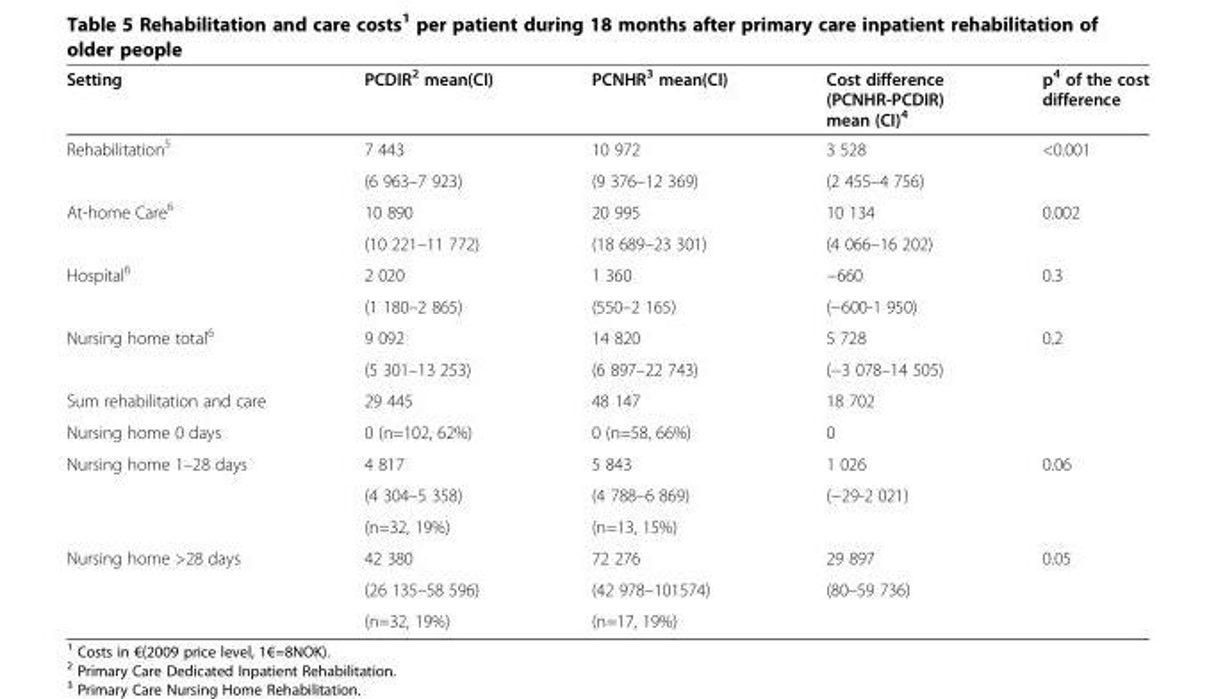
<table><thead><tr><td>Setting</td><td>PCDIR<sup>2</sup> mean(CI)</td><td>PCNHR<sup>3</sup> mean(CI)</td><td>Cost difference (PCNHR-PCDIR) mean (CI)<sup>4</sup></td><td>p<sup>4</sup> of the cost difference</td></tr></thead><tbody><tr><td rowspan="2">Rehabilitation<sup>5</sup></td><td>7 443</td><td>10 972</td><td>3 528</td><td rowspan="2">&lt;0.001</td></tr><tr><td>(6 963–7 923)</td><td>(9 376–12 369)</td><td>(2 455–4 756)</td></tr><tr><td rowspan="2">At-home Care<sup>6</sup></td><td>10 890</td><td>20 995</td><td>10 134</td><td rowspan="2">0.002</td></tr><tr><td>(10 221–11 772)</td><td>(18 689–23 301)</td><td>(4 066–16 202)</td></tr><tr><td rowspan="2">Hospital<sup>6</sup></td><td>2 020</td><td>1 360</td><td>−660</td><td rowspan="2">0.3</td></tr><tr><td>(1 180–2 865)</td><td>(550–2 165)</td><td>(−600-1 950)</td></tr><tr><td rowspan="2">Nursing home total<sup>6</sup></td><td>9 092</td><td>14 820</td><td>5 728</td><td rowspan="2">0.2</td></tr><tr><td>(5 301–13 253)</td><td>(6 897–22 743)</td><td>(−3 078–14 505)</td></tr><tr><td>Sum rehabilitation and care</td><td>29 445</td><td>48 147</td><td>18 702</td><td></td></tr><tr><td>Nursing home 0 days</td><td>0 (n=102, 62%)</td><td>0 (n=58, 66%)</td><td>0</td><td></td></tr><tr><td rowspan="3">Nursing home 1–28 days</td><td>4 817</td><td>5 843</td><td>1 026</td><td rowspan="2">0.06</td></tr><tr><td>(4 304–5 358)</td><td>(4 788–6 869)</td><td>(−29-2 021)</td></tr><tr><td>(n=32, 19%)</td><td>(n=13, 15%)</td><td></td><td></td></tr><tr><td rowspan="3">Nursing home &gt;28 days</td><td>42 380</td><td>72 276</td><td>29 897</td><td rowspan="2">0.05</td></tr><tr><td>(26 135–58 596)</td><td>(42 978–101574)</td><td>(80–59 736)</td></tr><tr><td>(n=32, 19%)</td><td>(n=17, 19%)</td><td></td><td></td></tr></tbody></table>